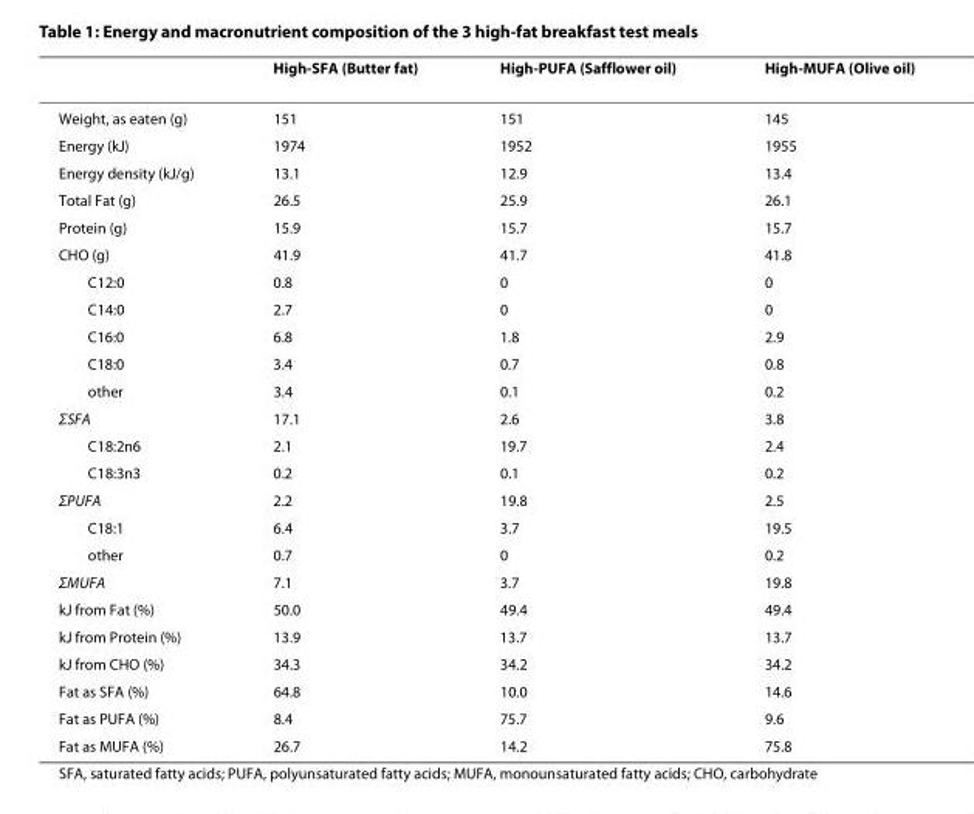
<table><thead><tr><td></td><td>High-SFA (Butter fat)</td><td>High-PUFA (Safflower oil)</td><td>High-MUFA (Olive oil)</td></tr></thead><tbody><tr><td>Weight, as eaten (g)</td><td>151</td><td>151</td><td>145</td></tr><tr><td>Energy (kJ)</td><td>1974</td><td>1952</td><td>1955</td></tr><tr><td>Energy density (kJ/g)</td><td>13.1</td><td>12.9</td><td>13.4</td></tr><tr><td>Total Fat (g)</td><td>26.5</td><td>25.9</td><td>26.1</td></tr><tr><td>Protein (g)</td><td>15.9</td><td>15.7</td><td>15.7</td></tr><tr><td>CHO (g)</td><td>41.9</td><td>41.7</td><td>41.8</td></tr><tr><td>C12:0</td><td>0.8</td><td>0</td><td>0</td></tr><tr><td>C14:0</td><td>2.7</td><td>0</td><td>0</td></tr><tr><td>C16:0</td><td>6.8</td><td>1.8</td><td>2.9</td></tr><tr><td>C18:0</td><td>3.4</td><td>0.7</td><td>0.8</td></tr><tr><td>other</td><td>3.4</td><td>0.1</td><td>0.2</td></tr><tr><td>ΣSFA</td><td>17.1</td><td>2.6</td><td>3.8</td></tr><tr><td>C18:2n6</td><td>2.1</td><td>19.7</td><td>2.4</td></tr><tr><td>C18:3n3</td><td>0.2</td><td>0.1</td><td>0.2</td></tr><tr><td>ΣPUFA</td><td>2.2</td><td>19.8</td><td>2.5</td></tr><tr><td>C18:1</td><td>6.4</td><td>3.7</td><td>19.5</td></tr><tr><td>other</td><td>0.7</td><td>0</td><td>0.2</td></tr><tr><td>ΣMUFA</td><td>7.1</td><td>3.7</td><td>19.8</td></tr><tr><td>kJ from Fat (%)</td><td>50.0</td><td>49.4</td><td>49.4</td></tr><tr><td>kJ from Protein (%)</td><td>13.9</td><td>13.7</td><td>13.7</td></tr><tr><td>kJ from CHO (%)</td><td>34.3</td><td>34.2</td><td>34.2</td></tr><tr><td>Fat as SFA (%)</td><td>64.8</td><td>10.0</td><td>14.6</td></tr><tr><td>Fat as PUFA (%)</td><td>8.4</td><td>75.7</td><td>9.6</td></tr><tr><td>Fat as MUFA (%)</td><td>26.7</td><td>14.2</td><td>75.8</td></tr></tbody></table>